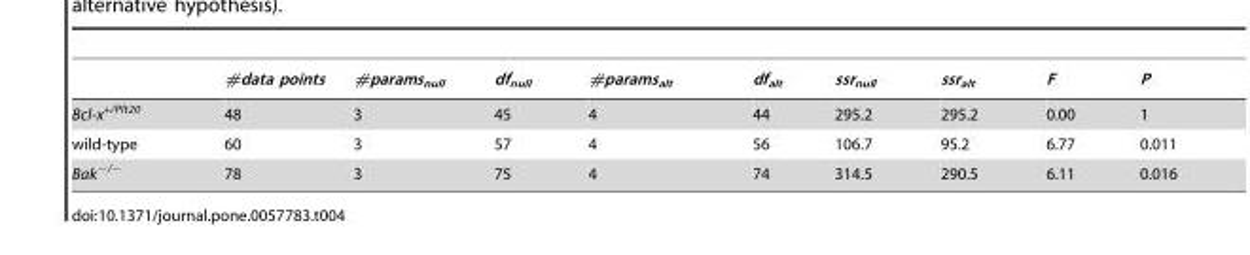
<table><thead><tr><td></td><td>#data points</td><td>#params<sub>null</sub></td><td>df<sub>null</sub></td><td>#params<sub>alt</sub></td><td>df<sub>alt</sub></td><td>ssr<sub>null</sub></td><td>ssr<sub>alt</sub></td><td>F</td><td>P</td></tr></thead><tbody><tr><td>Bcl-x<sup>+/Plt20</sup></td><td>48</td><td>3</td><td>45</td><td>4</td><td>44</td><td>295.2</td><td>295.2</td><td>0.00</td><td>1</td></tr><tr><td>wild-type</td><td>60</td><td>3</td><td>57</td><td>4</td><td>56</td><td>106.7</td><td>95.2</td><td>6.77</td><td>0.011</td></tr><tr><td>Bak<sup>−/−</sup></td><td>78</td><td>3</td><td>75</td><td>4</td><td>74</td><td>314.5</td><td>290.5</td><td>6.11</td><td>0.016</td></tr></tbody></table>